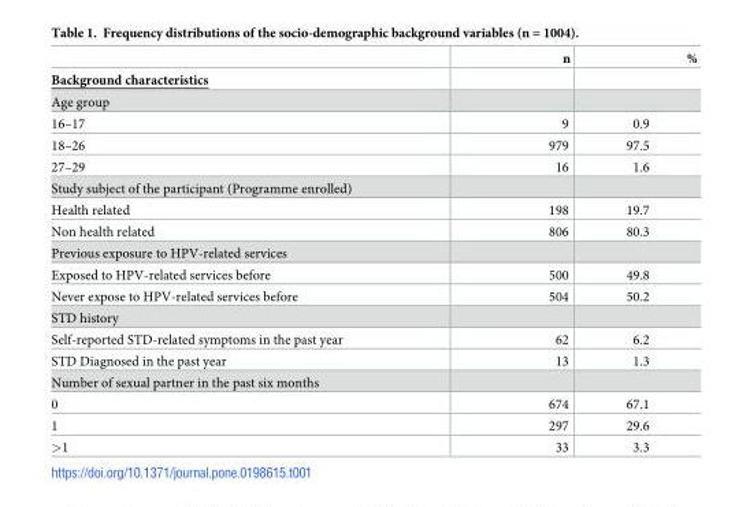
<table><thead><tr><td rowspan="2">Background characteristics</td><td rowspan="2">n</td><td rowspan="2">%</td></tr><tr></tr></thead><tbody><tr><td colspan="3">Age group</td></tr><tr><td>16–17</td><td>9</td><td>0.9</td></tr><tr><td>18–26</td><td>979</td><td>97.5</td></tr><tr><td>27–29</td><td>16</td><td>1.6</td></tr><tr><td colspan="3">Study subject of the participant (Programme enrolled)</td></tr><tr><td>Health related</td><td>198</td><td>19.7</td></tr><tr><td>Non health related</td><td>806</td><td>80.3</td></tr><tr><td colspan="3">Previous exposure to HPV-related services</td></tr><tr><td>Exposed to HPV-related services before</td><td>500</td><td>49.8</td></tr><tr><td>Never expose to HPV-related services before</td><td>504</td><td>50.2</td></tr><tr><td colspan="3">STD history</td></tr><tr><td>Self-reported STD-related symptoms in the past year</td><td>62</td><td>6.2</td></tr><tr><td>STD Diagnosed in the past year</td><td>13</td><td>1.3</td></tr><tr><td colspan="3">Number of sexual partner in the past six months</td></tr><tr><td>0</td><td>674</td><td>67.1</td></tr><tr><td>1</td><td>297</td><td>29.6</td></tr><tr><td>&gt;1</td><td>33</td><td>3.3</td></tr></tbody></table>